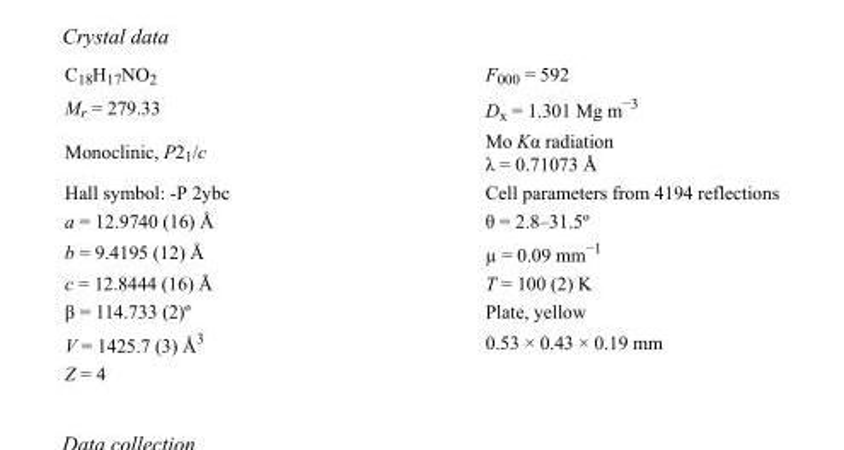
<table><tbody><tr><td>C<sub>18</sub>H<sub>17</sub>NO<sub>2</sub></td><td>F000 = 592</td></tr><tr><td>M<sub>r</sub> = 279.33</td><td>D<sub>x</sub> = 1.301 Mg m<sup>−3</sup></td></tr><tr><td>Monoclinic, P2<sub>1</sub>/c</td><td>Mo Kα radiation λ = 0.71073 Å</td></tr><tr><td>Hall symbol: -P 2ybc</td><td>Cell parameters from 4194 reflections</td></tr><tr><td>a = 12.9740 (16) Å</td><td>θ = 2.8–31.5º</td></tr><tr><td>b = 9.4195 (12) Å</td><td>µ = 0.09 mm<sup>−1</sup></td></tr><tr><td>c = 12.8444 (16) Å</td><td>T = 100 (2) K</td></tr><tr><td>β = 114.733 (2)º</td><td>Plate, yellow</td></tr><tr><td>V = 1425.7 (3) Å<sup>3</sup></td><td>0.53 × 0.43 × 0.19 mm</td></tr><tr><td>Z = 4</td><td></td></tr></tbody></table>